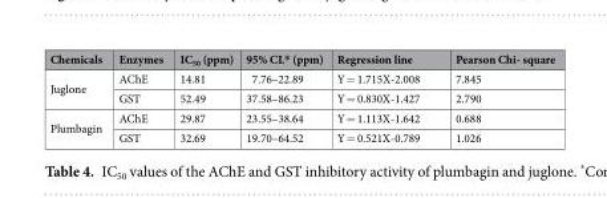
<table><thead><tr><td>Chemicals</td><td>Enzymes</td><td>IC<sub>50</sub> (ppm)</td><td>95% CL* (ppm)</td><td>Regression line</td><td>Pearson Chi- square</td></tr></thead><tbody><tr><td rowspan="2">Juglone</td><td>AChE</td><td>14.81</td><td>7.76–22.89</td><td>Y = 1.715X-2.008</td><td>7.845</td></tr><tr><td>GST</td><td>52.49</td><td>37.58–86.23</td><td>Y = 0.830X-1.427</td><td>2.790</td></tr><tr><td rowspan="2">Plumbagin</td><td>AChE</td><td>29.87</td><td>23.55–38.64</td><td>Y = 1.113X-1.642</td><td>0.688</td></tr><tr><td>GST</td><td>32.69</td><td>19.70–64.52</td><td>Y = 0.521X-0.789</td><td>1.026</td></tr></tbody></table>